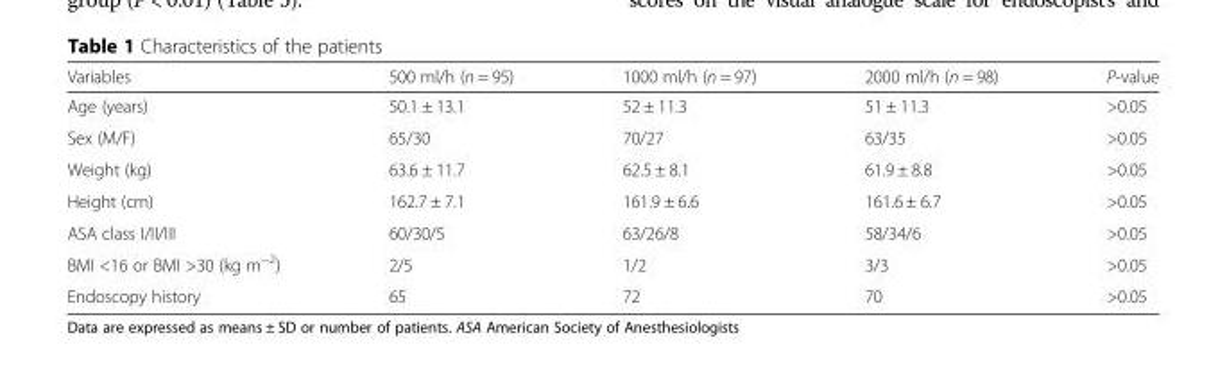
<table><thead><tr><td>Variables</td><td>500 ml/h (n = 95)</td><td>1000 ml/h (n = 97)</td><td>2000 ml/h (n = 98)</td><td>P-value</td></tr></thead><tbody><tr><td>Age (years)</td><td>50.1 ± 13.1</td><td>52 ± 11.3</td><td>51 ± 11.3</td><td>&gt;0.05</td></tr><tr><td>Sex (M/F)</td><td>65/30</td><td>70/27</td><td>63/35</td><td>&gt;0.05</td></tr><tr><td>Weight (kg)</td><td>63.6 ± 11.7</td><td>62.5 ± 8.1</td><td>61.9 ± 8.8</td><td>&gt;0.05</td></tr><tr><td>Height (cm)</td><td>162.7 ± 7.1</td><td>161.9 ± 6.6</td><td>161.6 ± 6.7</td><td>&gt;0.05</td></tr><tr><td>ASA class I/II/III</td><td>60/30/5</td><td>63/26/8</td><td>58/34/6</td><td>&gt;0.05</td></tr><tr><td>BMI &lt;16 or BMI &gt;30 (kg m<sup>−2</sup>)</td><td>2/5</td><td>1/2</td><td>3/3</td><td>&gt;0.05</td></tr><tr><td>Endoscopy history</td><td>65</td><td>72</td><td>70</td><td>&gt;0.05</td></tr></tbody></table>